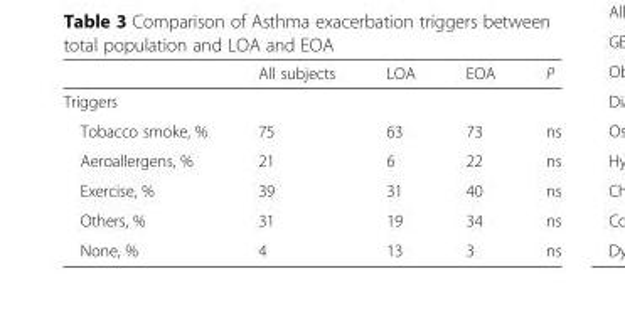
<table><thead><tr><td></td><td>All subjects</td><td>LOA</td><td>EOA</td><td>P</td></tr></thead><tbody><tr><td colspan="5">Triggers</td></tr><tr><td>Tobacco smoke, %</td><td>75</td><td>63</td><td>73</td><td>ns</td></tr><tr><td>Aeroallergens, %</td><td>21</td><td>6</td><td>22</td><td>ns</td></tr><tr><td>Exercise, %</td><td>39</td><td>31</td><td>40</td><td>ns</td></tr><tr><td>Others, %</td><td>31</td><td>19</td><td>34</td><td>ns</td></tr><tr><td>None, %</td><td>4</td><td>13</td><td>3</td><td>ns</td></tr></tbody></table>